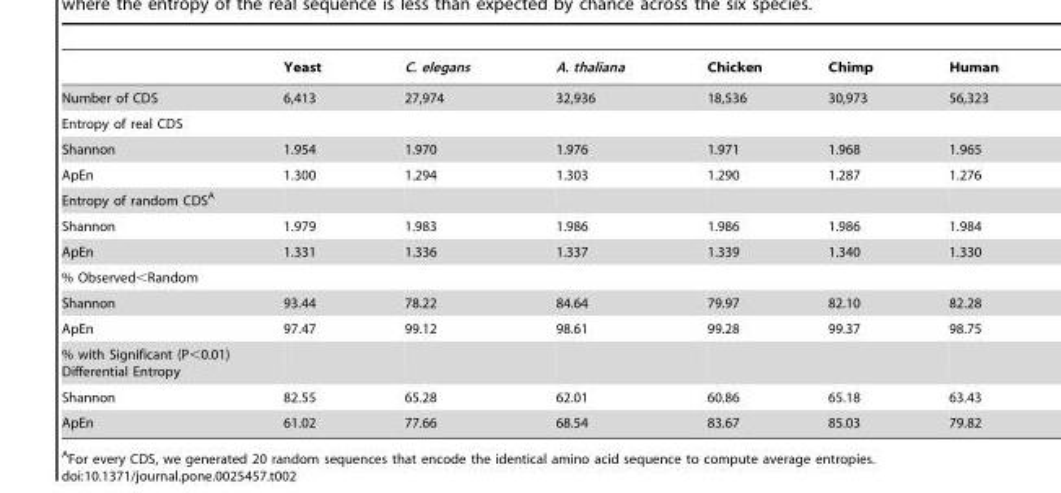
<table><thead><tr><td></td><td>Yeast</td><td>C. elegans</td><td>A. thaliana</td><td>Chicken</td><td>Chimp</td><td>Human</td></tr></thead><tbody><tr><td>Number of CDS</td><td>6,413</td><td>27,974</td><td>32,936</td><td>18,536</td><td>30,973</td><td>56,323</td></tr><tr><td colspan="7">Entropy of real CDS</td></tr><tr><td>Shannon</td><td>1.954</td><td>1.970</td><td>1.976</td><td>1.971</td><td>1.968</td><td>1.965</td></tr><tr><td>ApEn</td><td>1.300</td><td>1.294</td><td>1.303</td><td>1.290</td><td>1.287</td><td>1.276</td></tr><tr><td colspan="7">Entropy of random CDS<sup>A</sup></td></tr><tr><td>Shannon</td><td>1.979</td><td>1.983</td><td>1.986</td><td>1.986</td><td>1.986</td><td>1.984</td></tr><tr><td>ApEn</td><td>1.331</td><td>1.336</td><td>1.337</td><td>1.339</td><td>1.340</td><td>1.330</td></tr><tr><td colspan="7">% Observed&lt;Random</td></tr><tr><td>Shannon</td><td>93.44</td><td>78.22</td><td>84.64</td><td>79.97</td><td>82.10</td><td>82.28</td></tr><tr><td>ApEn</td><td>97.47</td><td>99.12</td><td>98.61</td><td>99.28</td><td>99.37</td><td>98.75</td></tr><tr><td colspan="7">% with Significant (P&lt;0.01) Differential Entropy</td></tr><tr><td>Shannon</td><td>82.55</td><td>65.28</td><td>62.01</td><td>60.86</td><td>65.18</td><td>63.43</td></tr><tr><td>ApEn</td><td>61.02</td><td>77.66</td><td>68.54</td><td>83.67</td><td>85.03</td><td>79.82</td></tr></tbody></table>